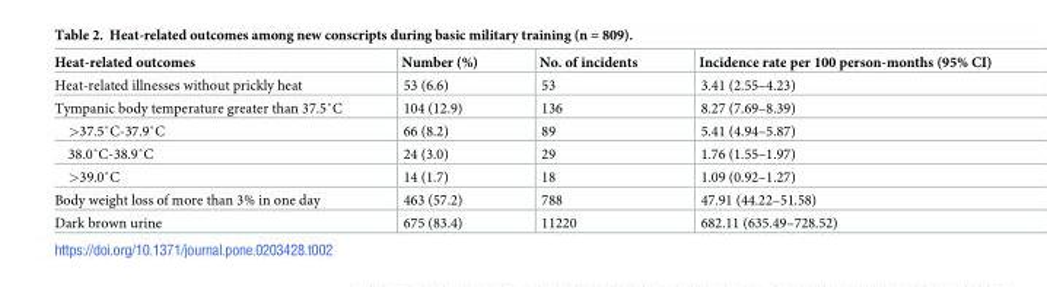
<table><thead><tr><td>Heat-related outcomes</td><td>Number (%)</td><td>No. of incidents</td><td>Incidence rate per 100 person-months (95% CI)</td></tr></thead><tbody><tr><td>Heat-related illnesses without prickly heat</td><td>53 (6.6)</td><td>53</td><td>3.41 (2.55–4.23)</td></tr><tr><td>Tympanic body temperature greater than 37.5˚C</td><td>104 (12.9)</td><td>136</td><td>8.27 (7.69–8.39)</td></tr><tr><td>&gt;37.5˚C-37.9˚C</td><td>66 (8.2)</td><td>89</td><td>5.41 (4.94–5.87)</td></tr><tr><td>38.0˚C-38.9˚C</td><td>24 (3.0)</td><td>29</td><td>1.76 (1.55–1.97)</td></tr><tr><td>&gt;39.0˚C</td><td>14 (1.7)</td><td>18</td><td>1.09 (0.92–1.27)</td></tr><tr><td>Body weight loss of more than 3% in one day</td><td>463 (57.2)</td><td>788</td><td>47.91 (44.22–51.58)</td></tr><tr><td>Dark brown urine</td><td>675 (83.4)</td><td>11220</td><td>682.11 (635.49–728.52)</td></tr></tbody></table>